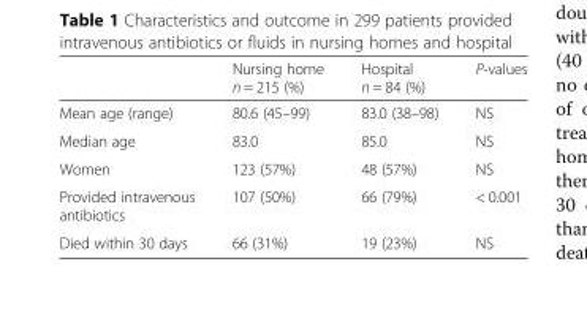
<table><thead><tr><td></td><td>Nursing home n = 215 (%)</td><td>Hospital n = 84 (%)</td><td>P-values</td></tr></thead><tbody><tr><td>Mean age (range)</td><td>80.6 (45–99)</td><td>83.0 (38–98)</td><td>NS</td></tr><tr><td>Median age</td><td>83.0</td><td>85.0</td><td>NS</td></tr><tr><td>Women</td><td>123 (57%)</td><td>48 (57%)</td><td>NS</td></tr><tr><td>Provided intravenous antibiotics</td><td>107 (50%)</td><td>66 (79%)</td><td>&lt; 0.001</td></tr><tr><td>Died within 30 days</td><td>66 (31%)</td><td>19 (23%)</td><td>NS</td></tr></tbody></table>